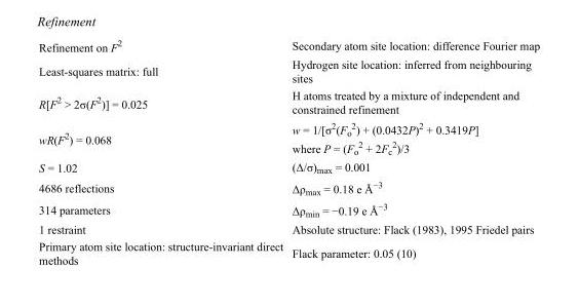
<table><tbody><tr><td>Refinement on F<sup>2</sup></td><td>Secondary atom site location: difference Fourier map</td></tr><tr><td>Least-squares matrix: full</td><td>Hydrogen site location: inferred from neighbouring sites</td></tr><tr><td>R[F<sup>2</sup> &gt; 2σ(F<sup>2</sup>)] = 0.025</td><td>H atoms treated by a mixture of independent and constrained refinement</td></tr><tr><td>wR(F<sup>2</sup>) = 0.068</td><td>w = 1/[σ<sup>2</sup>(F<sub>o</sub> <sup>2</sup>) + (0.0432P)<sup>2</sup> + 0.3419P] where P = (F<sub>o</sub> <sup>2</sup> + 2F<sub>c</sub> <sup>2</sup>)/3</td></tr><tr><td>S = 1.02</td><td>(Δ/σ)<sub>max</sub> = 0.001</td></tr><tr><td>4686 reflections</td><td>Δρ<sub>max</sub> = 0.18 e Å<sup>−3</sup></td></tr><tr><td>314 parameters</td><td>Δρ<sub>min</sub> = −0.19 e Å<sup>−3</sup></td></tr><tr><td>1 restraint</td><td>Absolute structure: Flack (1983), 1995 Friedel pairs</td></tr><tr><td>Primary atom site location: structure-invariant direct methods</td><td>Flack parameter: 0.05 (10)</td></tr></tbody></table>